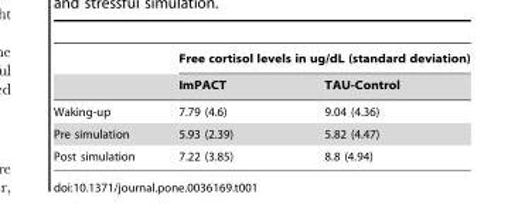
<table><thead><tr><td rowspan="2"></td><td colspan="2">Free cortisol levels in ug/dL (standard deviation)</td></tr><tr><td>ImPACT</td><td>TAU-Control</td></tr></thead><tbody><tr><td>Waking-up</td><td>7.79 (4.6)</td><td>9.04 (4.36)</td></tr><tr><td>Pre simulation</td><td>5.93 (2.39)</td><td>5.82 (4.47)</td></tr><tr><td>Post simulation</td><td>7.22 (3.85)</td><td>8.8 (4.94)</td></tr></tbody></table>